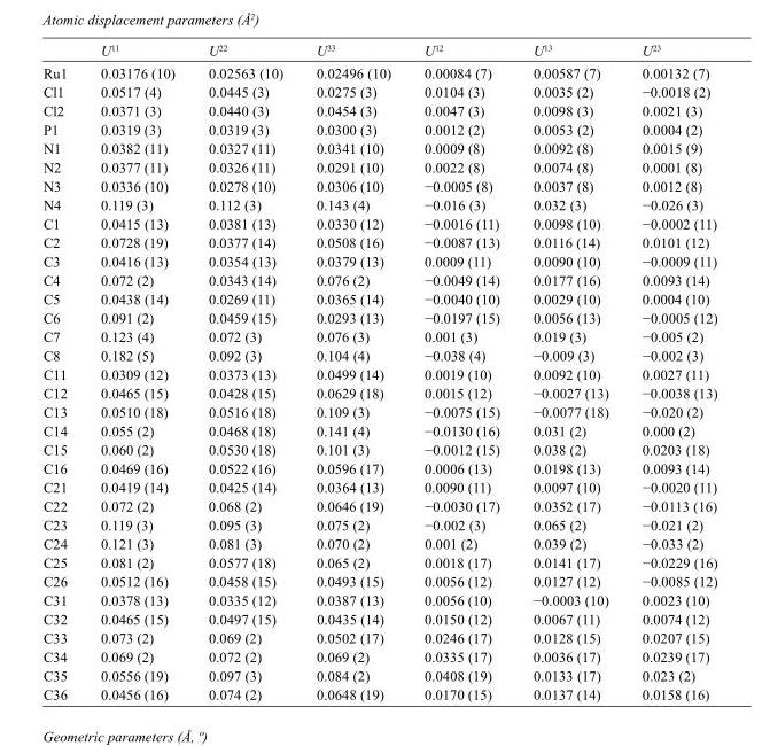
<table><thead><tr><td></td><td>U<sup>11</sup></td><td>U<sup>22</sup></td><td>U<sup>33</sup></td><td>U<sup>12</sup></td><td>U<sup>13</sup></td><td>U<sup>23</sup></td></tr></thead><tbody><tr><td>Ru1</td><td>0.03176 (10)</td><td>0.02563 (10)</td><td>0.02496 (10)</td><td>0.00084 (7)</td><td>0.00587 (7)</td><td>0.00132 (7)</td></tr><tr><td>Cl1</td><td>0.0517 (4)</td><td>0.0445 (3)</td><td>0.0275 (3)</td><td>0.0104 (3)</td><td>0.0035 (2)</td><td>−0.0018 (2)</td></tr><tr><td>Cl2</td><td>0.0371 (3)</td><td>0.0440 (3)</td><td>0.0454 (3)</td><td>0.0047 (3)</td><td>0.0098 (3)</td><td>0.0021 (3)</td></tr><tr><td>P1</td><td>0.0319 (3)</td><td>0.0319 (3)</td><td>0.0300 (3)</td><td>0.0012 (2)</td><td>0.0053 (2)</td><td>0.0004 (2)</td></tr><tr><td>N1</td><td>0.0382 (11)</td><td>0.0327 (11)</td><td>0.0341 (10)</td><td>0.0009 (8)</td><td>0.0092 (8)</td><td>0.0015 (9)</td></tr><tr><td>N2</td><td>0.0377 (11)</td><td>0.0326 (11)</td><td>0.0291 (10)</td><td>0.0022 (8)</td><td>0.0074 (8)</td><td>0.0001 (8)</td></tr><tr><td>N3</td><td>0.0336 (10)</td><td>0.0278 (10)</td><td>0.0306 (10)</td><td>−0.0005 (8)</td><td>0.0037 (8)</td><td>0.0012 (8)</td></tr><tr><td>N4</td><td>0.119 (3)</td><td>0.112 (3)</td><td>0.143 (4)</td><td>−0.016 (3)</td><td>0.032 (3)</td><td>−0.026 (3)</td></tr><tr><td>C1</td><td>0.0415 (13)</td><td>0.0381 (13)</td><td>0.0330 (12)</td><td>−0.0016 (11)</td><td>0.0098 (10)</td><td>−0.0002 (11)</td></tr><tr><td>C2</td><td>0.0728 (19)</td><td>0.0377 (14)</td><td>0.0508 (16)</td><td>−0.0087 (13)</td><td>0.0116 (14)</td><td>0.0101 (12)</td></tr><tr><td>C3</td><td>0.0416 (13)</td><td>0.0354 (13)</td><td>0.0379 (13)</td><td>0.0009 (11)</td><td>0.0090 (10)</td><td>−0.0009 (11)</td></tr><tr><td>C4</td><td>0.072 (2)</td><td>0.0343 (14)</td><td>0.076 (2)</td><td>−0.0049 (14)</td><td>0.0177 (16)</td><td>0.0093 (14)</td></tr><tr><td>C5</td><td>0.0438 (14)</td><td>0.0269 (11)</td><td>0.0365 (14)</td><td>−0.0040 (10)</td><td>0.0029 (10)</td><td>0.0004 (10)</td></tr><tr><td>C6</td><td>0.091 (2)</td><td>0.0459 (15)</td><td>0.0293 (13)</td><td>−0.0197 (15)</td><td>0.0056 (13)</td><td>−0.0005 (12)</td></tr><tr><td>C7</td><td>0.123 (4)</td><td>0.072 (3)</td><td>0.076 (3)</td><td>0.001 (3)</td><td>0.019 (3)</td><td>−0.005 (2)</td></tr><tr><td>C8</td><td>0.182 (5)</td><td>0.092 (3)</td><td>0.104 (4)</td><td>−0.038 (4)</td><td>−0.009 (3)</td><td>−0.002 (3)</td></tr><tr><td>C11</td><td>0.0309 (12)</td><td>0.0373 (13)</td><td>0.0499 (14)</td><td>0.0019 (10)</td><td>0.0092 (10)</td><td>0.0027 (11)</td></tr><tr><td>C12</td><td>0.0465 (15)</td><td>0.0428 (15)</td><td>0.0629 (18)</td><td>0.0015 (12)</td><td>−0.0027 (13)</td><td>−0.0038 (13)</td></tr><tr><td>C13</td><td>0.0510 (18)</td><td>0.0516 (18)</td><td>0.109 (3)</td><td>−0.0075 (15)</td><td>−0.0077 (18)</td><td>−0.020 (2)</td></tr><tr><td>C14</td><td>0.055 (2)</td><td>0.0468 (18)</td><td>0.141 (4)</td><td>−0.0130 (16)</td><td>0.031 (2)</td><td>0.000 (2)</td></tr><tr><td>C15</td><td>0.060 (2)</td><td>0.0530 (18)</td><td>0.101 (3)</td><td>−0.0012 (15)</td><td>0.038 (2)</td><td>0.0203 (18)</td></tr><tr><td>C16</td><td>0.0469 (16)</td><td>0.0522 (16)</td><td>0.0596 (17)</td><td>0.0006 (13)</td><td>0.0198 (13)</td><td>0.0093 (14)</td></tr><tr><td>C21</td><td>0.0419 (14)</td><td>0.0425 (14)</td><td>0.0364 (13)</td><td>0.0090 (11)</td><td>0.0097 (10)</td><td>−0.0020 (11)</td></tr><tr><td>C22</td><td>0.072 (2)</td><td>0.068 (2)</td><td>0.0646 (19)</td><td>−0.0030 (17)</td><td>0.0352 (17)</td><td>−0.0113 (16)</td></tr><tr><td>C23</td><td>0.119 (3)</td><td>0.095 (3)</td><td>0.075 (2)</td><td>−0.002 (3)</td><td>0.065 (2)</td><td>−0.021 (2)</td></tr><tr><td>C24</td><td>0.121 (3)</td><td>0.081 (3)</td><td>0.070 (2)</td><td>0.001 (2)</td><td>0.039 (2)</td><td>−0.033 (2)</td></tr><tr><td>C25</td><td>0.081 (2)</td><td>0.0577 (18)</td><td>0.065 (2)</td><td>0.0018 (17)</td><td>0.0141 (17)</td><td>−0.0229 (16)</td></tr><tr><td>C26</td><td>0.0512 (16)</td><td>0.0458 (15)</td><td>0.0493 (15)</td><td>0.0056 (12)</td><td>0.0127 (12)</td><td>−0.0085 (12)</td></tr><tr><td>C31</td><td>0.0378 (13)</td><td>0.0335 (12)</td><td>0.0387 (13)</td><td>0.0056 (10)</td><td>−0.0003 (10)</td><td>0.0023 (10)</td></tr><tr><td>C32</td><td>0.0465 (15)</td><td>0.0497 (15)</td><td>0.0435 (14)</td><td>0.0150 (12)</td><td>0.0067 (11)</td><td>0.0074 (12)</td></tr><tr><td>C33</td><td>0.073 (2)</td><td>0.069 (2)</td><td>0.0502 (17)</td><td>0.0246 (17)</td><td>0.0128 (15)</td><td>0.0207 (15)</td></tr><tr><td>C34</td><td>0.069 (2)</td><td>0.072 (2)</td><td>0.069 (2)</td><td>0.0335 (17)</td><td>0.0036 (17)</td><td>0.0239 (17)</td></tr><tr><td>C35</td><td>0.0556 (19)</td><td>0.097 (3)</td><td>0.084 (2)</td><td>0.0408 (19)</td><td>0.0133 (17)</td><td>0.023 (2)</td></tr><tr><td>C36</td><td>0.0456 (16)</td><td>0.074 (2)</td><td>0.0648 (19)</td><td>0.0170 (15)</td><td>0.0137 (14)</td><td>0.0158 (16)</td></tr></tbody></table>